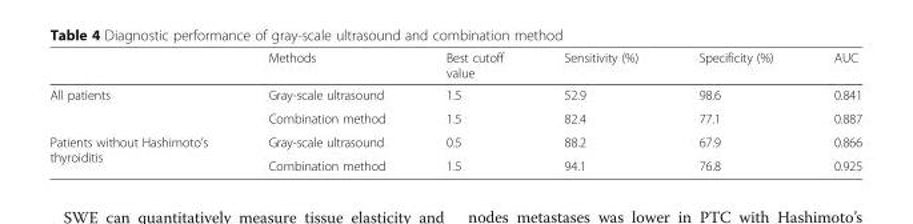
<table><thead><tr><td></td><td>Methods</td><td>Best cutoff value</td><td>Sensitivity (%)</td><td>Specificity (%)</td><td>AUC</td></tr></thead><tbody><tr><td rowspan="2">All patients</td><td>Gray-scale ultrasound</td><td>1.5</td><td>52.9</td><td>98.6</td><td>0.841</td></tr><tr><td>Combination method</td><td>1.5</td><td>82.4</td><td>77.1</td><td>0.887</td></tr><tr><td rowspan="2">Patients without Hashimoto’s thyroiditis</td><td>Gray-scale ultrasound</td><td>0.5</td><td>88.2</td><td>67.9</td><td>0.866</td></tr><tr><td>Combination method</td><td>1.5</td><td>94.1</td><td>76.8</td><td>0.925</td></tr></tbody></table>